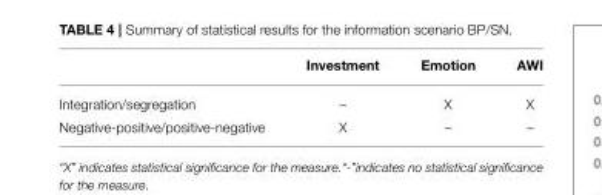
<table><thead><tr><td></td><td>Investment</td><td>Emotion</td><td>AWI</td></tr></thead><tbody><tr><td>Integration/segregation</td><td>–</td><td>X</td><td>X</td></tr><tr><td>Negative-positive/positive-negative</td><td>X</td><td>–</td><td>–</td></tr></tbody></table>